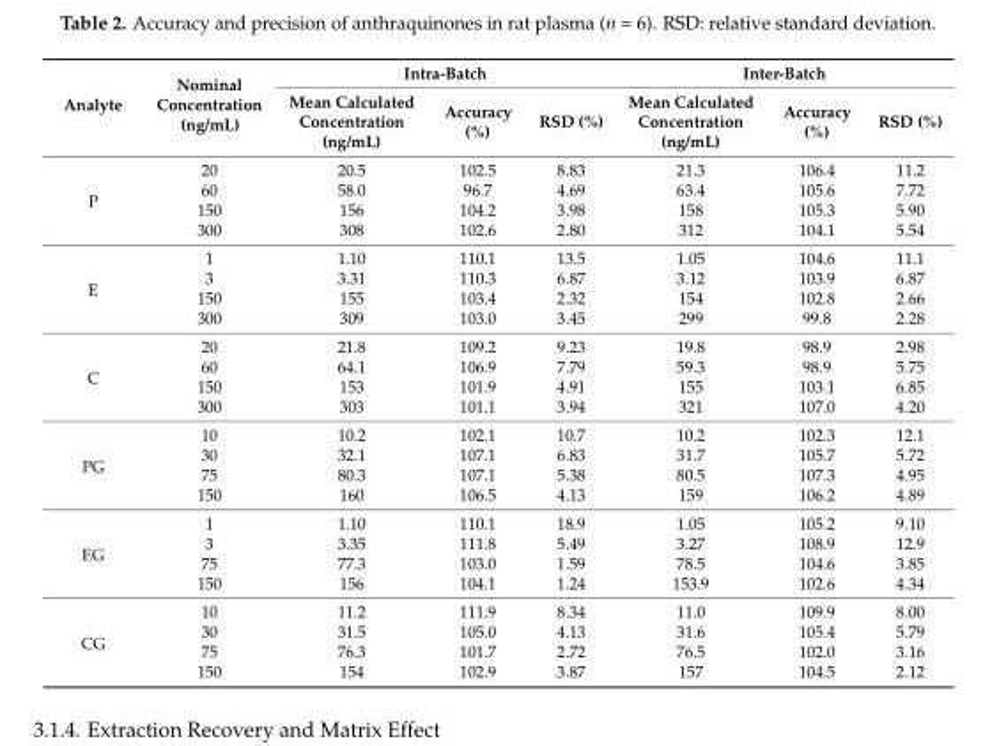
<table><thead><tr><td rowspan="2">Analyte</td><td rowspan="2">Nominal Concentration (ng/mL)</td><td colspan="3">Intra-Batch</td><td colspan="3">Inter-Batch</td></tr><tr><td>Mean Calculated Concentration (ng/mL)</td><td>Accuracy (%)</td><td>RSD (%)</td><td>Mean Calculated Concentration (ng/mL)</td><td>Accuracy (%)</td><td>RSD (%)</td></tr></thead><tbody><tr><td rowspan="4">P</td><td>20</td><td>20.5</td><td>102.5</td><td>8.83</td><td>21.3</td><td>106.4</td><td>11.2</td></tr><tr><td>60</td><td>58.0</td><td>96.7</td><td>4.69</td><td>63.4</td><td>105.6</td><td>7.72</td></tr><tr><td>150</td><td>156</td><td>104.2</td><td>3.98</td><td>158</td><td>105.3</td><td>5.90</td></tr><tr><td>300</td><td>308</td><td>102.6</td><td>2.80</td><td>312</td><td>104.1</td><td>5.54</td></tr><tr><td rowspan="4">E</td><td>1</td><td>1.10</td><td>110.1</td><td>13.5</td><td>1.05</td><td>104.6</td><td>11.1</td></tr><tr><td>3</td><td>3.31</td><td>110.3</td><td>6.87</td><td>3.12</td><td>103.9</td><td>6.87</td></tr><tr><td>150</td><td>155</td><td>103.4</td><td>2.32</td><td>154</td><td>102.8</td><td>2.66</td></tr><tr><td>300</td><td>309</td><td>103.0</td><td>3.45</td><td>299</td><td>99.8</td><td>2.28</td></tr><tr><td rowspan="4">C</td><td>20</td><td>21.8</td><td>109.2</td><td>9.23</td><td>19.8</td><td>98.9</td><td>2.98</td></tr><tr><td>60</td><td>64.1</td><td>106.9</td><td>7.79</td><td>59.3</td><td>98.9</td><td>5.75</td></tr><tr><td>150</td><td>153</td><td>101.9</td><td>4.91</td><td>155</td><td>103.1</td><td>6.85</td></tr><tr><td>300</td><td>303</td><td>101.1</td><td>3.94</td><td>321</td><td>107.0</td><td>4.20</td></tr><tr><td rowspan="4">PG</td><td>10</td><td>10.2</td><td>102.1</td><td>10.7</td><td>10.2</td><td>102.3</td><td>12.1</td></tr><tr><td>30</td><td>32.1</td><td>107.1</td><td>6.83</td><td>31.7</td><td>105.7</td><td>5.72</td></tr><tr><td>75</td><td>80.3</td><td>107.1</td><td>5.38</td><td>80.5</td><td>107.3</td><td>4.95</td></tr><tr><td>150</td><td>160</td><td>106.5</td><td>4.13</td><td>159</td><td>106.2</td><td>4.89</td></tr><tr><td rowspan="4">EG</td><td>1</td><td>1.10</td><td>110.1</td><td>18.9</td><td>1.05</td><td>105.2</td><td>9.10</td></tr><tr><td>3</td><td>3.35</td><td>111.8</td><td>5.49</td><td>3.27</td><td>108.9</td><td>12.9</td></tr><tr><td>75</td><td>77.3</td><td>103.0</td><td>1.59</td><td>78.5</td><td>104.6</td><td>3.85</td></tr><tr><td>150</td><td>156</td><td>104.1</td><td>1.24</td><td>153.9</td><td>102.6</td><td>4.34</td></tr><tr><td rowspan="4">CG</td><td>10</td><td>11.2</td><td>111.9</td><td>8.34</td><td>11.0</td><td>109.9</td><td>8.00</td></tr><tr><td>30</td><td>31.5</td><td>105.0</td><td>4.13</td><td>31.6</td><td>105.4</td><td>5.79</td></tr><tr><td>75</td><td>76.3</td><td>101.7</td><td>2.72</td><td>76.5</td><td>102.0</td><td>3.16</td></tr><tr><td>150</td><td>154</td><td>102.9</td><td>3.87</td><td>157</td><td>104.5</td><td>2.12</td></tr></tbody></table>